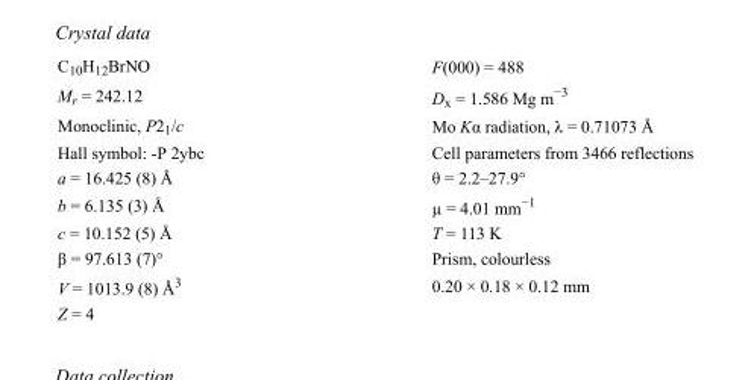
<table><tbody><tr><td>C<sub>10</sub>H<sub>12</sub>BrNO</td><td>F(000) = 488</td></tr><tr><td>M<sub>r</sub> = 242.12</td><td>D<sub>x</sub> = 1.586 Mg m<sup>−3</sup></td></tr><tr><td>Monoclinic, P2<sub>1</sub>/c</td><td>Mo Kα radiation, λ = 0.71073 Å</td></tr><tr><td>Hall symbol: -P 2ybc</td><td>Cell parameters from 3466 reflections</td></tr><tr><td>a = 16.425 (8) Å</td><td>θ = 2.2–27.9°</td></tr><tr><td>b = 6.135 (3) Å</td><td>µ = 4.01 mm<sup>−1</sup></td></tr><tr><td>c = 10.152 (5) Å</td><td>T = 113 K</td></tr><tr><td>β = 97.613 (7)°</td><td>Prism, colourless</td></tr><tr><td>V = 1013.9 (8) Å<sup>3</sup></td><td>0.20 × 0.18 × 0.12 mm</td></tr><tr><td>Z = 4</td><td></td></tr></tbody></table>